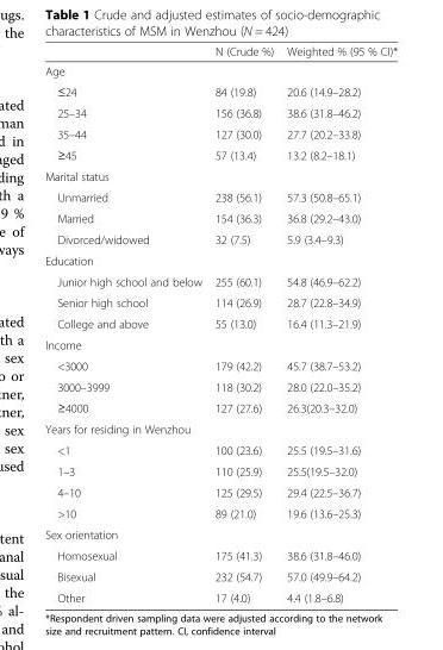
<table><thead><tr><td></td><td>N (Crude %)</td><td>Weighted % (95 % CI)*</td></tr></thead><tbody><tr><td colspan="3">Age</td></tr><tr><td>≤24</td><td>84 (19.8)</td><td>20.6 (14.9–28.2)</td></tr><tr><td>25–34</td><td>156 (36.8)</td><td>38.6 (31.8–46.2)</td></tr><tr><td>35–44</td><td>127 (30.0)</td><td>27.7 (20.2–33.8)</td></tr><tr><td>≥45</td><td>57 (13.4)</td><td>13.2 (8.2–18.1)</td></tr><tr><td colspan="3">Marital status</td></tr><tr><td>Unmarried</td><td>238 (56.1)</td><td>57.3 (50.8–65.1)</td></tr><tr><td>Married</td><td>154 (36.3)</td><td>36.8 (29.2–43.0)</td></tr><tr><td>Divorced/widowed</td><td>32 (7.5)</td><td>5.9 (3.4–9.3)</td></tr><tr><td colspan="3">Education</td></tr><tr><td>Junior high school and below</td><td>255 (60.1)</td><td>54.8 (46.9–62.2)</td></tr><tr><td>Senior high school</td><td>114 (26.9)</td><td>28.7 (22.8–34.9)</td></tr><tr><td>College and above</td><td>55 (13.0)</td><td>16.4 (11.3–21.9)</td></tr><tr><td colspan="3">Income</td></tr><tr><td>&lt;3000</td><td>179 (42.2)</td><td>45.7 (38.7–53.2)</td></tr><tr><td>3000–3999</td><td>118 (30.2)</td><td>28.0 (22.0–35.2)</td></tr><tr><td>≥4000</td><td>127 (27.6)</td><td>26.3(20.3–32.0)</td></tr><tr><td colspan="3">Years for residing in Wenzhou</td></tr><tr><td>&lt;1</td><td>100 (23.6)</td><td>25.5 (19.5–31.6)</td></tr><tr><td>1–3</td><td>110 (25.9)</td><td>25.5(19.5–32.0)</td></tr><tr><td>4–10</td><td>125 (29.5)</td><td>29.4 (22.5–36.7)</td></tr><tr><td>&gt;10</td><td>89 (21.0)</td><td>19.6 (13.6–25.3)</td></tr><tr><td colspan="3">Sex orientation</td></tr><tr><td>Homosexual</td><td>175 (41.3)</td><td>38.6 (31.8–46.0)</td></tr><tr><td>Bisexual</td><td>232 (54.7)</td><td>57.0 (49.9–64.2)</td></tr><tr><td>Other</td><td>17 (4.0)</td><td>4.4 (1.8–6.8)</td></tr></tbody></table>